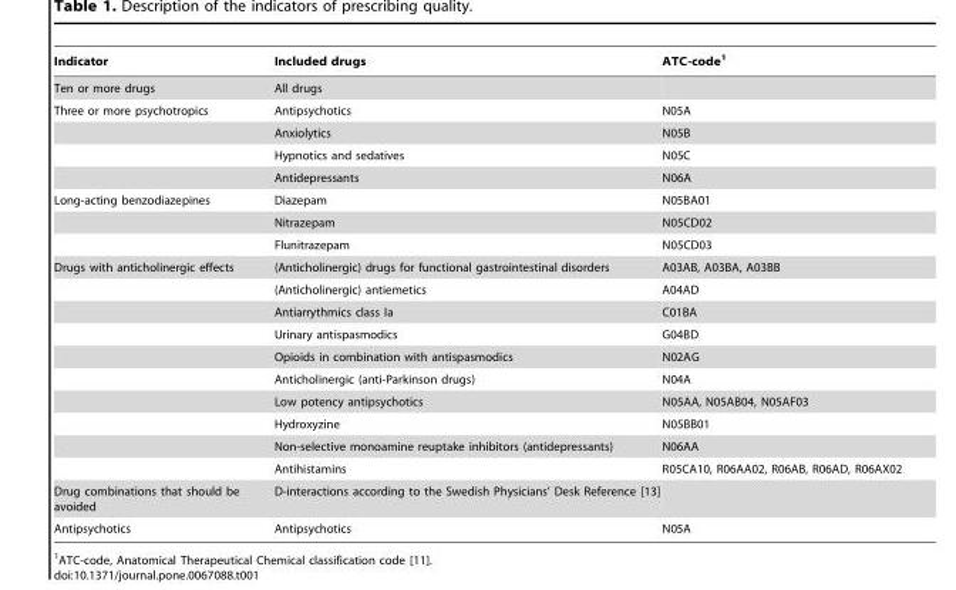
<table><thead><tr><td>Indicator</td><td>Included drugs</td><td>ATC-code<sup>1</sup></td></tr></thead><tbody><tr><td>Ten or more drugs</td><td>All drugs</td><td></td></tr><tr><td rowspan="4">Three or more psychotropics</td><td>Antipsychotics</td><td>N05A</td></tr><tr><td>Anxiolytics</td><td>N05B</td></tr><tr><td>Hypnotics and sedatives</td><td>N05C</td></tr><tr><td>Antidepressants</td><td>N06A</td></tr><tr><td rowspan="3">Long-acting benzodiazepines</td><td>Diazepam</td><td>N05BA01</td></tr><tr><td>Nitrazepam</td><td>N05CD02</td></tr><tr><td>Flunitrazepam</td><td>N05CD03</td></tr><tr><td rowspan="10">Drugs with anticholinergic effects</td><td>(Anticholinergic) drugs for functional gastrointestinal disorders</td><td>A03AB, A03BA, A03BB</td></tr><tr><td>(Anticholinergic) antiemetics</td><td>A04AD</td></tr><tr><td>Antiarrythmics class Ia</td><td>C01BA</td></tr><tr><td>Urinary antispasmodics</td><td>G04BD</td></tr><tr><td>Opioids in combination with antispasmodics</td><td>N02AG</td></tr><tr><td>Anticholinergic (anti-Parkinson drugs)</td><td>N04A</td></tr><tr><td>Low potency antipsychotics</td><td>N05AA, N05AB04, N05AF03</td></tr><tr><td>Hydroxyzine</td><td>N05BB01</td></tr><tr><td>Non-selective monoamine reuptake inhibitors (antidepressants)</td><td>N06AA</td></tr><tr><td>Antihistamins</td><td>R05CA10, R06AA02, R06AB, R06AD, R06AX02</td></tr><tr><td>Drug combinations that should be avoided</td><td>D-interactions according to the Swedish Physicians’ Desk Reference [13]</td><td></td></tr><tr><td>Antipsychotics</td><td>Antipsychotics</td><td>N05A</td></tr></tbody></table>